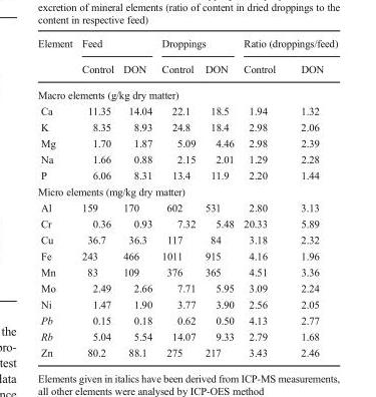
<table><thead><tr><td rowspan="2">Element</td><td colspan="2">Feed</td><td colspan="2">Droppings</td><td colspan="2">Ratio (droppings/feed)</td></tr><tr><td>Control</td><td>DON</td><td>Control</td><td>DON</td><td>Control</td><td>DON</td></tr></thead><tbody><tr><td colspan="7">Macro elements (g/kg dry matter)</td></tr><tr><td>Ca</td><td>11.35</td><td>14.04</td><td>22.1</td><td>18.5</td><td>1.94</td><td>1.32</td></tr><tr><td>K</td><td>8.35</td><td>8.93</td><td>24.8</td><td>18.4</td><td>2.98</td><td>2.06</td></tr><tr><td>Mg</td><td>1.70</td><td>1.87</td><td>5.09</td><td>4.46</td><td>2.98</td><td>2.39</td></tr><tr><td>Na</td><td>1.66</td><td>0.88</td><td>2.15</td><td>2.01</td><td>1.29</td><td>2.28</td></tr><tr><td>P</td><td>6.06</td><td>8.31</td><td>13.4</td><td>11.9</td><td>2.20</td><td>1.44</td></tr><tr><td colspan="7">Micro elements (mg/kg dry matter)</td></tr><tr><td>Al</td><td>159</td><td>170</td><td>602</td><td>531</td><td>2.80</td><td>3.13</td></tr><tr><td>Cr</td><td>0.36</td><td>0.93</td><td>7.32</td><td>5.48</td><td>20.33</td><td>5.89</td></tr><tr><td>Cu</td><td>36.7</td><td>36.3</td><td>117</td><td>84</td><td>3.18</td><td>2.32</td></tr><tr><td>Fe</td><td>243</td><td>466</td><td>1011</td><td>915</td><td>4.16</td><td>1.96</td></tr><tr><td>Mn</td><td>83</td><td>109</td><td>376</td><td>365</td><td>4.51</td><td>3.36</td></tr><tr><td>Mo</td><td>2.49</td><td>2.66</td><td>7.71</td><td>5.95</td><td>3.09</td><td>2.24</td></tr><tr><td>Ni</td><td>1.47</td><td>1.90</td><td>3.77</td><td>3.90</td><td>2.56</td><td>2.05</td></tr><tr><td>Pb</td><td>0.15</td><td>0.18</td><td>0.62</td><td>0.50</td><td>4.13</td><td>2.77</td></tr><tr><td>Rb</td><td>5.04</td><td>5.54</td><td>14.07</td><td>9.33</td><td>2.79</td><td>1.68</td></tr><tr><td>Zn</td><td>80.2</td><td>88.1</td><td>275</td><td>217</td><td>3.43</td><td>2.46</td></tr></tbody></table>